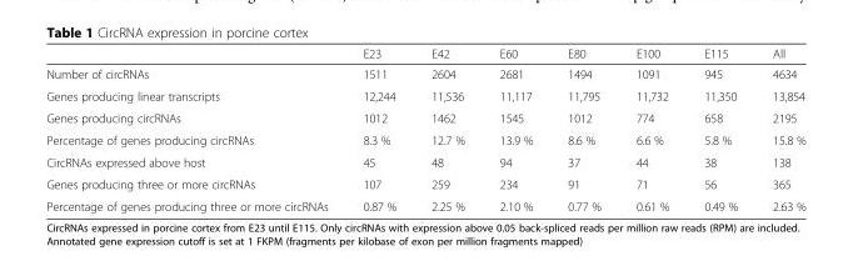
<table><thead><tr><td></td><td>E23</td><td>E42</td><td>E60</td><td>E80</td><td>E100</td><td>E115</td><td>All</td></tr></thead><tbody><tr><td>Number of circRNAs</td><td>1511</td><td>2604</td><td>2681</td><td>1494</td><td>1091</td><td>945</td><td>4634</td></tr><tr><td>Genes producing linear transcripts</td><td>12,244</td><td>11,536</td><td>11,117</td><td>11,795</td><td>11,732</td><td>11,350</td><td>13,854</td></tr><tr><td>Genes producing circRNAs</td><td>1012</td><td>1462</td><td>1545</td><td>1012</td><td>774</td><td>658</td><td>2195</td></tr><tr><td>Percentage of genes producing circRNAs</td><td>8.3 %</td><td>12.7 %</td><td>13.9 %</td><td>8.6 %</td><td>6.6 %</td><td>5.8 %</td><td>15.8 %</td></tr><tr><td>CircRNAs expressed above host</td><td>45</td><td>48</td><td>94</td><td>37</td><td>44</td><td>38</td><td>138</td></tr><tr><td>Genes producing three or more circRNAs</td><td>107</td><td>259</td><td>234</td><td>91</td><td>71</td><td>56</td><td>365</td></tr><tr><td>Percentage of genes producing three or more circRNAs</td><td>0.87 %</td><td>2.25 %</td><td>2.10 %</td><td>0.77 %</td><td>0.61 %</td><td>0.49 %</td><td>2.63 %</td></tr></tbody></table>